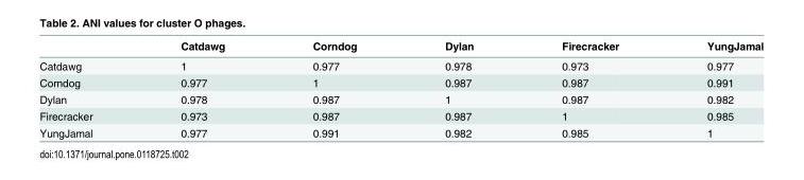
<table><thead><tr><td></td><td>Catdawg</td><td>Corndog</td><td>Dylan</td><td>Firecracker</td><td>YungJamal</td></tr></thead><tbody><tr><td>Catdawg</td><td>1</td><td>0.977</td><td>0.978</td><td>0.973</td><td>0.977</td></tr><tr><td>Corndog</td><td>0.977</td><td>1</td><td>0.987</td><td>0.987</td><td>0.991</td></tr><tr><td>Dylan</td><td>0.978</td><td>0.987</td><td>1</td><td>0.987</td><td>0.982</td></tr><tr><td>Firecracker</td><td>0.973</td><td>0.987</td><td>0.987</td><td>1</td><td>0.985</td></tr><tr><td>YungJamal</td><td>0.977</td><td>0.991</td><td>0.982</td><td>0.985</td><td>1</td></tr></tbody></table>